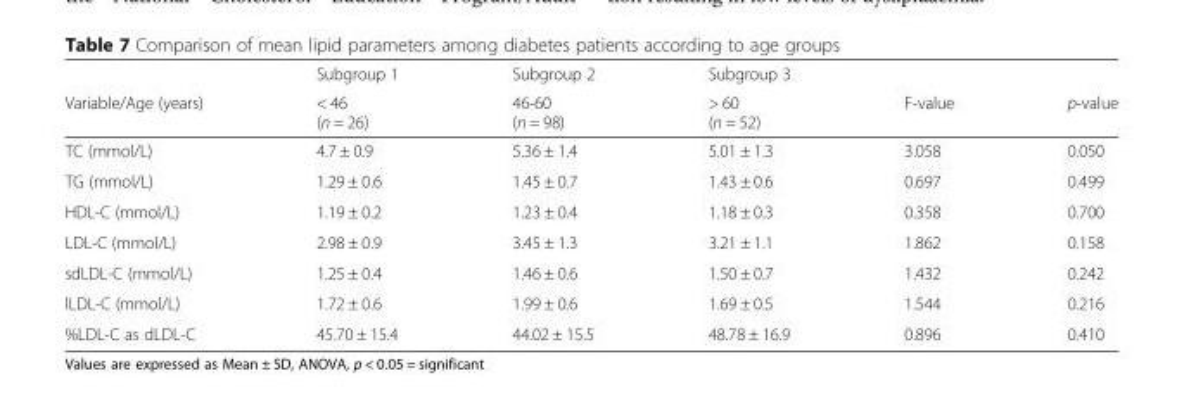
<table><thead><tr><td rowspan="2">Variable/Age (years)</td><td rowspan="2">Subgroup 1 &lt; 46 (n = 26)</td><td rowspan="2">Subgroup 2 46-60 (n = 98)</td><td rowspan="2">Subgroup 3 &gt; 60 (n = 52)</td><td rowspan="2">F-value</td><td rowspan="2">p-value</td></tr><tr></tr></thead><tbody><tr><td>TC (mmol/L)</td><td>4.7 ± 0.9</td><td>5.36 ± 1.4</td><td>5.01 ± 1.3</td><td>3.058</td><td>0.050</td></tr><tr><td>TG (mmol/L)</td><td>1.29 ± 0.6</td><td>1.45 ± 0.7</td><td>1.43 ± 0.6</td><td>0.697</td><td>0.499</td></tr><tr><td>HDL-C (mmol/L)</td><td>1.19 ± 0.2</td><td>1.23 ± 0.4</td><td>1.18 ± 0.3</td><td>0.358</td><td>0.700</td></tr><tr><td>LDL-C (mmol/L)</td><td>2.98 ± 0.9</td><td>3.45 ± 1.3</td><td>3.21 ± 1.1</td><td>1.862</td><td>0.158</td></tr><tr><td>sdLDL-C (mmol/L)</td><td>1.25 ± 0.4</td><td>1.46 ± 0.6</td><td>1.50 ± 0.7</td><td>1.432</td><td>0.242</td></tr><tr><td>lLDL-C (mmol/L)</td><td>1.72 ± 0.6</td><td>1.99 ± 0.6</td><td>1.69 ± 0.5</td><td>1.544</td><td>0.216</td></tr><tr><td>%LDL-C as dLDL-C</td><td>45.70 ± 15.4</td><td>44.02 ± 15.5</td><td>48.78 ± 16.9</td><td>0.896</td><td>0.410</td></tr></tbody></table>